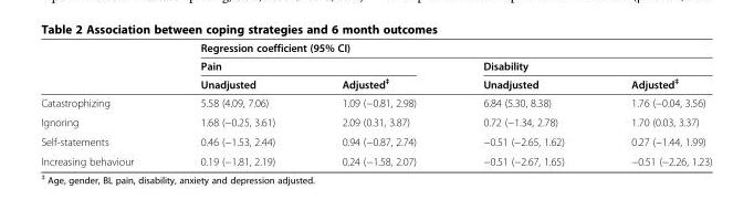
<table><thead><tr><td rowspan="3"></td><td colspan="4">Regression coefficient (95% CI)</td></tr><tr><td colspan="2">Pain</td><td colspan="2">Disability</td></tr><tr><td>Unadjusted</td><td>Adjusted<sup>‡</sup></td><td>Unadjusted</td><td>Adjusted<sup>‡</sup></td></tr></thead><tbody><tr><td>Catastrophizing</td><td>5.58 (4.09, 7.06)</td><td>1.09 (−0.81, 2.98)</td><td>6.84 (5.30, 8.38)</td><td>1.76 (−0.04, 3.56)</td></tr><tr><td>Ignoring</td><td>1.68 (−0.25, 3.61)</td><td>2.09 (0.31, 3.87)</td><td>0.72 (−1.34, 2.78)</td><td>1.70 (0.03, 3.37)</td></tr><tr><td>Self-statements</td><td>0.46 (−1.53, 2.44)</td><td>0.94 (−0.87, 2.74)</td><td>−0.51 (−2.65, 1.62)</td><td>0.27 (−1.44, 1.99)</td></tr><tr><td>Increasing behaviour</td><td>0.19 (−1.81, 2.19)</td><td>0.24 (−1.58, 2.07)</td><td>−0.51 (−2.67, 1.65)</td><td>−0.51 (−2.26, 1.23)</td></tr></tbody></table>